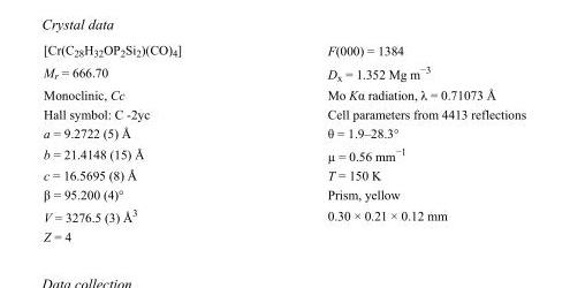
<table><tbody><tr><td>[Cr(C<sub>28</sub>H<sub>32</sub>OP<sub>2</sub>Si<sub>2</sub>)(CO)<sub>4</sub>]</td><td>F(000) = 1384</td></tr><tr><td>M<sub>r</sub> = 666.70</td><td>D<sub>x</sub> = 1.352 Mg m<sup>−3</sup></td></tr><tr><td>Monoclinic, Cc</td><td>Mo Kα radiation, λ = 0.71073 Å</td></tr><tr><td>Hall symbol: C -2yc</td><td>Cell parameters from 4413 reflections</td></tr><tr><td>a = 9.2722 (5) Å</td><td>θ = 1.9–28.3°</td></tr><tr><td>b = 21.4148 (15) Å</td><td>µ = 0.56 mm<sup>−1</sup></td></tr><tr><td>c = 16.5695 (8) Å</td><td>T = 150 K</td></tr><tr><td>β = 95.200 (4)°</td><td>Prism, yellow</td></tr><tr><td>V = 3276.5 (3) Å<sup>3</sup></td><td>0.30 × 0.21 × 0.12 mm</td></tr><tr><td>Z = 4</td><td></td></tr></tbody></table>